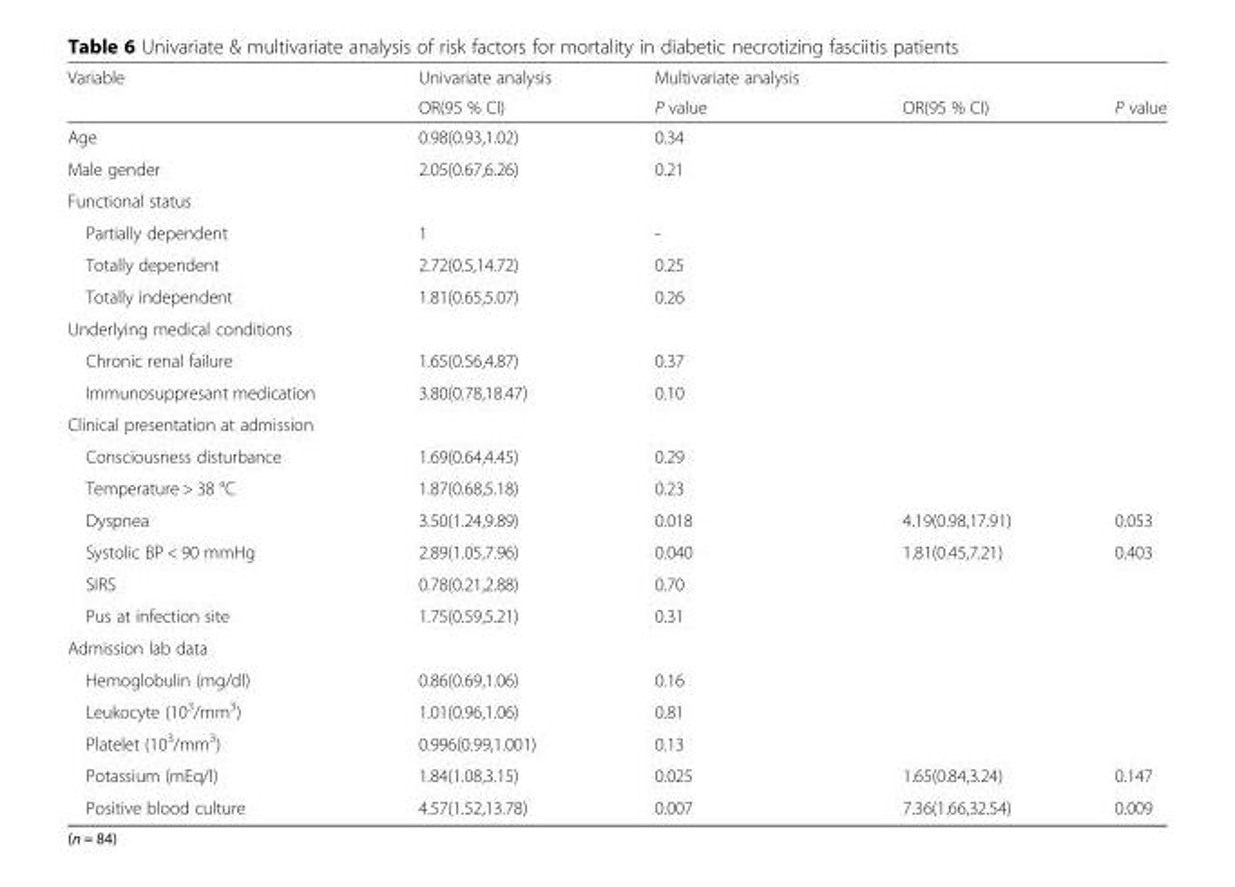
<table><thead><tr><td rowspan="2">Variable</td><td rowspan="2">Univariate analysis OR(95 % CI)</td><td rowspan="2">Multivariate analysis P value</td><td rowspan="2">OR(95 % CI)</td><td rowspan="2">P value</td></tr><tr></tr></thead><tbody><tr><td>Age</td><td>0.98(0.93,1.02)</td><td>0.34</td><td></td><td></td></tr><tr><td>Male gender</td><td>2.05(0.67,6.26)</td><td>0.21</td><td></td><td></td></tr><tr><td colspan="5">Functional status</td></tr><tr><td>Partially dependent</td><td>1</td><td>-</td><td></td><td></td></tr><tr><td>Totally dependent</td><td>2.72(0.5,14.72)</td><td>0.25</td><td></td><td></td></tr><tr><td>Totally independent</td><td>1.81(0.65,5.07)</td><td>0.26</td><td></td><td></td></tr><tr><td colspan="5">Underlying medical conditions</td></tr><tr><td>Chronic renal failure</td><td>1.65(0.56,4.87)</td><td>0.37</td><td></td><td></td></tr><tr><td>Immunosuppresant medication</td><td>3.80(0.78,18.47)</td><td>0.10</td><td></td><td></td></tr><tr><td colspan="5">Clinical presentation at admission</td></tr><tr><td>Consciousness disturbance</td><td>1.69(0.64,4.45)</td><td>0.29</td><td></td><td></td></tr><tr><td>Temperature &gt; 38 °C</td><td>1.87(0.68,5.18)</td><td>0.23</td><td></td><td></td></tr><tr><td>Dyspnea</td><td>3.50(1.24,9.89)</td><td>0.018</td><td>4.19(0.98,17.91)</td><td>0.053</td></tr><tr><td>Systolic BP &lt; 90 mmHg</td><td>2.89(1.05,7.96)</td><td>0.040</td><td>1.81(0.45,7.21)</td><td>0.403</td></tr><tr><td>SIRS</td><td>0.78(0.21,2.88)</td><td>0.70</td><td></td><td></td></tr><tr><td>Pus at infection site</td><td>1.75(0.59,5.21)</td><td>0.31</td><td></td><td></td></tr><tr><td colspan="5">Admission lab data</td></tr><tr><td>Hemoglobulin (mg/dl)</td><td>0.86(0.69,1.06)</td><td>0.16</td><td></td><td></td></tr><tr><td>Leukocyte (10<sup>3</sup>/mm<sup>3</sup>)</td><td>1.01(0.96,1.06)</td><td>0.81</td><td></td><td></td></tr><tr><td>Platelet (10<sup>3</sup>/mm<sup>3</sup>)</td><td>0.996(0.99,1.001)</td><td>0.13</td><td></td><td></td></tr><tr><td>Potassium (mEq/l)</td><td>1.84(1.08,3.15)</td><td>0.025</td><td>1.65(0.84,3.24)</td><td>0.147</td></tr><tr><td>Positive blood culture</td><td>4.57(1.52,13.78)</td><td>0.007</td><td>7.36(1.66,32.54)</td><td>0.009</td></tr></tbody></table>